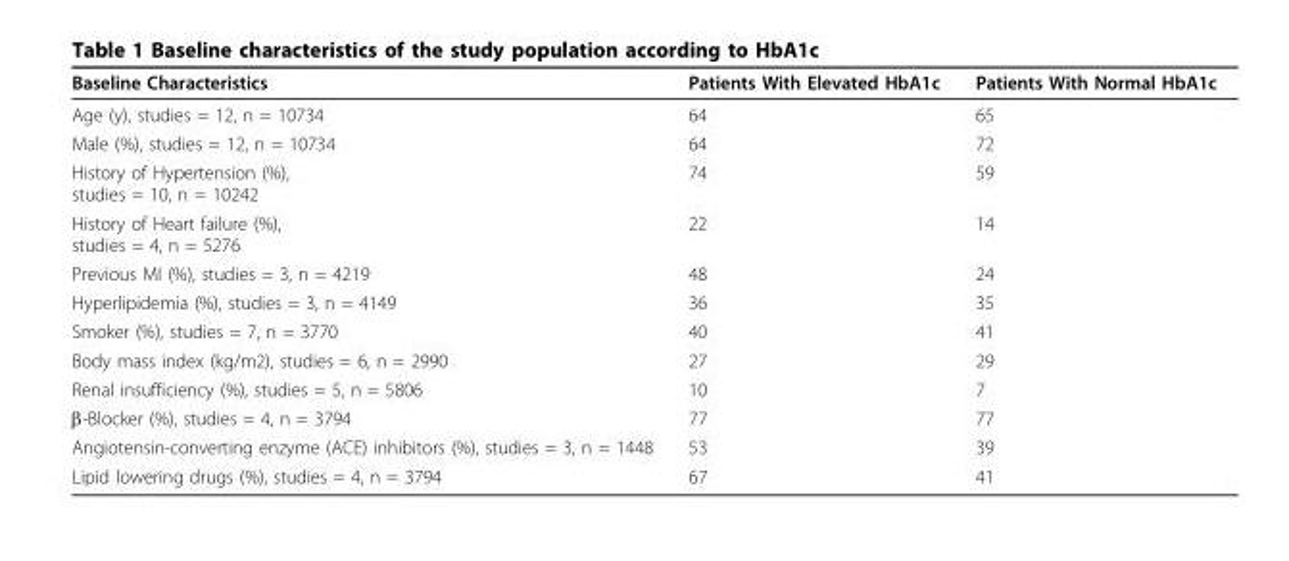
<table><thead><tr><td>Baseline Characteristics</td><td>Patients With Elevated HbA1c</td><td>Patients With Normal HbA1c</td></tr></thead><tbody><tr><td>Age (y), studies = 12, n = 10734</td><td>64</td><td>65</td></tr><tr><td>Male (%), studies = 12, n = 10734</td><td>64</td><td>72</td></tr><tr><td>History of Hypertension (%), studies = 10, n = 10242</td><td>74</td><td>59</td></tr><tr><td>History of Heart failure (%), studies = 4, n = 5276</td><td>22</td><td>14</td></tr><tr><td>Previous MI (%), studies = 3, n = 4219</td><td>48</td><td>24</td></tr><tr><td>Hyperlipidemia (%), studies = 3, n = 4149</td><td>36</td><td>35</td></tr><tr><td>Smoker (%), studies = 7, n = 3770</td><td>40</td><td>41</td></tr><tr><td>Body mass index (kg/m2), studies = 6, n = 2990</td><td>27</td><td>29</td></tr><tr><td>Renal insufficiency (%), studies = 5, n = 5806</td><td>10</td><td>7</td></tr><tr><td>β-Blocker (%), studies = 4, n = 3794</td><td>77</td><td>77</td></tr><tr><td>Angiotensin-converting enzyme (ACE) inhibitors (%), studies = 3, n = 1448</td><td>53</td><td>39</td></tr><tr><td>Lipid lowering drugs (%), studies = 4, n = 3794</td><td>67</td><td>41</td></tr></tbody></table>